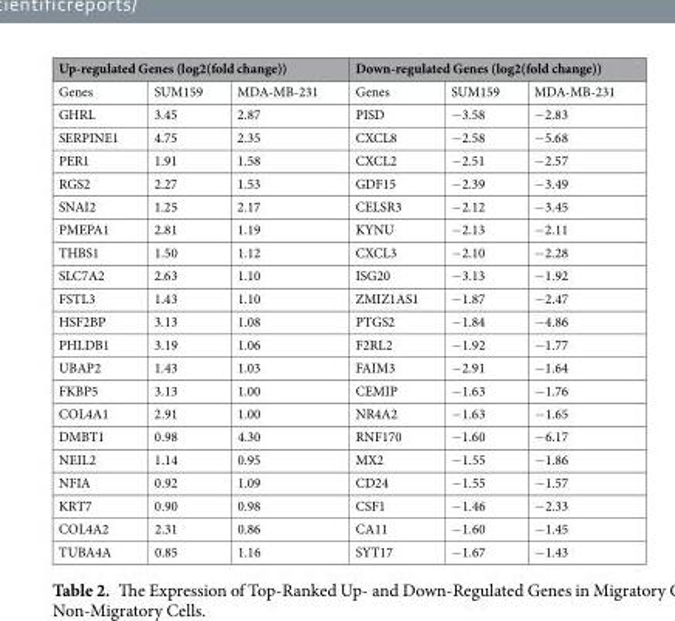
<table><thead><tr><td colspan="3">Up-regulated Genes (log2(fold change))</td><td colspan="3">Down-regulated Genes (log2(fold change))</td></tr><tr><td>Genes</td><td>SUM159</td><td>MDA-MB-231</td><td>Genes</td><td>SUM159</td><td>MDA-MB-231</td></tr></thead><tbody><tr><td>GHRL</td><td>3.45</td><td>2.87</td><td>PISD</td><td>−3.58</td><td>−2.83</td></tr><tr><td>SERPINE1</td><td>4.75</td><td>2.35</td><td>CXCL8</td><td>−2.58</td><td>−5.68</td></tr><tr><td>PER1</td><td>1.91</td><td>1.58</td><td>CXCL2</td><td>−2.51</td><td>−2.57</td></tr><tr><td>RGS2</td><td>2.27</td><td>1.53</td><td>GDF15</td><td>−2.39</td><td>−3.49</td></tr><tr><td>SNAI2</td><td>1.25</td><td>2.17</td><td>CELSR3</td><td>−2.12</td><td>−3.45</td></tr><tr><td>PMEPA1</td><td>2.81</td><td>1.19</td><td>KYNU</td><td>−2.13</td><td>−2.11</td></tr><tr><td>THBS1</td><td>1.50</td><td>1.12</td><td>CXCL3</td><td>−2.10</td><td>−2.28</td></tr><tr><td>SLC7A2</td><td>2.63</td><td>1.10</td><td>ISG20</td><td>−3.13</td><td>−1.92</td></tr><tr><td>FSTL3</td><td>1.43</td><td>1.10</td><td>ZMIZ1AS1</td><td>−1.87</td><td>−2.47</td></tr><tr><td>HSF2BP</td><td>3.13</td><td>1.08</td><td>PTGS2</td><td>−1.84</td><td>−4.86</td></tr><tr><td>PHLDB1</td><td>3.19</td><td>1.06</td><td>F2RL2</td><td>−1.92</td><td>−1.77</td></tr><tr><td>UBAP2</td><td>1.43</td><td>1.03</td><td>FAIM3</td><td>−2.91</td><td>−1.64</td></tr><tr><td>FKBP5</td><td>3.13</td><td>1.00</td><td>CEMIP</td><td>−1.63</td><td>−1.76</td></tr><tr><td>COL4A1</td><td>2.91</td><td>1.00</td><td>NR4A2</td><td>−1.63</td><td>−1.65</td></tr><tr><td>DMBT1</td><td>0.98</td><td>4.30</td><td>RNF170</td><td>−1.60</td><td>−6.17</td></tr><tr><td>NEIL2</td><td>1.14</td><td>0.95</td><td>MX2</td><td>−1.55</td><td>−1.86</td></tr><tr><td>NFIA</td><td>0.92</td><td>1.09</td><td>CD24</td><td>−1.55</td><td>−1.57</td></tr><tr><td>KRT7</td><td>0.90</td><td>0.98</td><td>CSF1</td><td>−1.46</td><td>−2.33</td></tr><tr><td>COL4A2</td><td>2.31</td><td>0.86</td><td>CA11</td><td>−1.60</td><td>−1.45</td></tr><tr><td>TUBA4A</td><td>0.85</td><td>1.16</td><td>SYT17</td><td>−1.67</td><td>−1.43</td></tr></tbody></table>